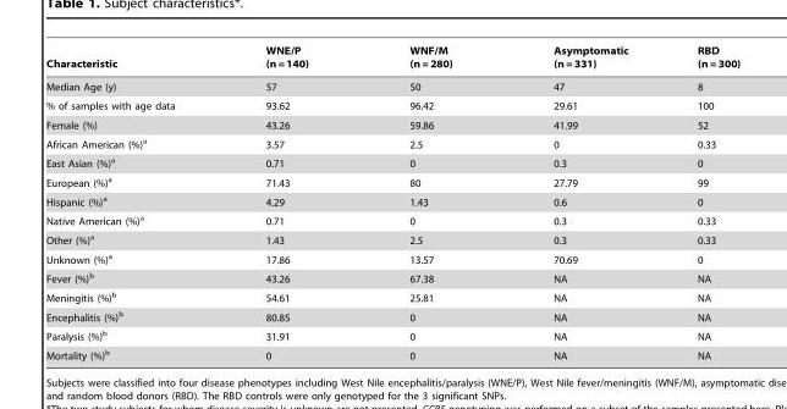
<table><thead><tr><td>Characteristic</td><td>WNE/P (n = 140)</td><td>WNF/M (n = 280)</td><td>Asymptomatic (n = 331)</td><td>RBD (n = 300)</td></tr></thead><tbody><tr><td>Median Age (y)</td><td>57</td><td>50</td><td>47</td><td>8</td></tr><tr><td>% of samples with age data</td><td>93.62</td><td>96.42</td><td>29.61</td><td>100</td></tr><tr><td>Female (%)</td><td>43.26</td><td>59.86</td><td>41.99</td><td>52</td></tr><tr><td>African American (%)<sup>a</sup></td><td>3.57</td><td>2.5</td><td>0</td><td>0.33</td></tr><tr><td>East Asian (%)<sup>a</sup></td><td>0.71</td><td>0</td><td>0.3</td><td>0</td></tr><tr><td>European (%)<sup>a</sup></td><td>71.43</td><td>80</td><td>27.79</td><td>99</td></tr><tr><td>Hispanic (%)<sup>a</sup></td><td>4.29</td><td>1.43</td><td>0.6</td><td>0</td></tr><tr><td>Native American (%)<sup>a</sup></td><td>0.71</td><td>0</td><td>0.3</td><td>0.33</td></tr><tr><td>Other (%)<sup>a</sup></td><td>1.43</td><td>2.5</td><td>0.3</td><td>0.33</td></tr><tr><td>Unknown (%)<sup>a</sup></td><td>17.86</td><td>13.57</td><td>70.69</td><td>0</td></tr><tr><td>Fever (%)<sup>b</sup></td><td>43.26</td><td>67.38</td><td>NA</td><td>NA</td></tr><tr><td>Meningitis (%)<sup>b</sup></td><td>54.61</td><td>25.81</td><td>NA</td><td>NA</td></tr><tr><td>Encephalitis (%)<sup>b</sup></td><td>80.85</td><td>0</td><td>NA</td><td>NA</td></tr><tr><td>Paralysis (%)<sup>b</sup></td><td>31.91</td><td>0</td><td>NA</td><td>NA</td></tr><tr><td>Mortality (%)<sup>b</sup></td><td>0</td><td>0</td><td>NA</td><td>NA</td></tr></tbody></table>